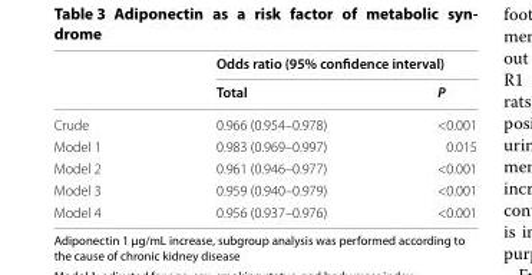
<table><thead><tr><td rowspan="2"></td><td colspan="2">Odds ratio (95% confidence interval)</td></tr><tr><td>Total</td><td>P</td></tr></thead><tbody><tr><td>Crude</td><td>0.966 (0.954–0.978)</td><td>&lt;0.001</td></tr><tr><td>Model 1</td><td>0.983 (0.969–0.997)</td><td>0.015</td></tr><tr><td>Model 2</td><td>0.961 (0.946–0.977)</td><td>&lt;0.001</td></tr><tr><td>Model 3</td><td>0.959 (0.940–0.979)</td><td>&lt;0.001</td></tr><tr><td>Model 4</td><td>0.956 (0.937–0.976)</td><td>&lt;0.001</td></tr></tbody></table>